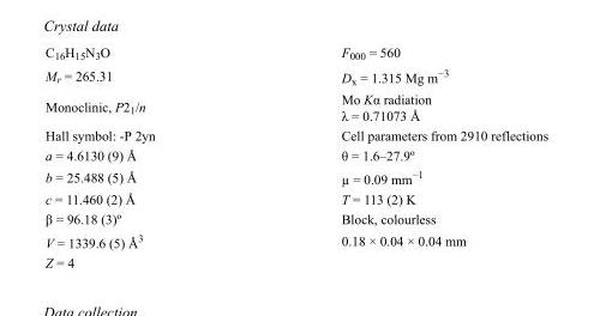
<table><tbody><tr><td>C<sub>16</sub>H<sub>15</sub>N<sub>3</sub>O</td><td>F000 = 560</td></tr><tr><td>M<sub>r</sub> = 265.31</td><td>D<sub>x</sub> = 1.315 Mg m<sup>−3</sup></td></tr><tr><td>Monoclinic, P2<sub>1</sub>/n</td><td>Mo Kα radiation λ = 0.71073 Å</td></tr><tr><td>Hall symbol: -P 2yn</td><td>Cell parameters from 2910 reflections</td></tr><tr><td>a = 4.6130 (9) Å</td><td>θ = 1.6–27.9º</td></tr><tr><td>b = 25.488 (5) Å</td><td>µ = 0.09 mm<sup>−1</sup></td></tr><tr><td>c = 11.460 (2) Å</td><td>T = 113 (2) K</td></tr><tr><td>β = 96.18 (3)º</td><td>Block, colourless</td></tr><tr><td>V = 1339.6 (5) Å<sup>3</sup></td><td>0.18 × 0.04 × 0.04 mm</td></tr><tr><td>Z = 4</td><td></td></tr></tbody></table>